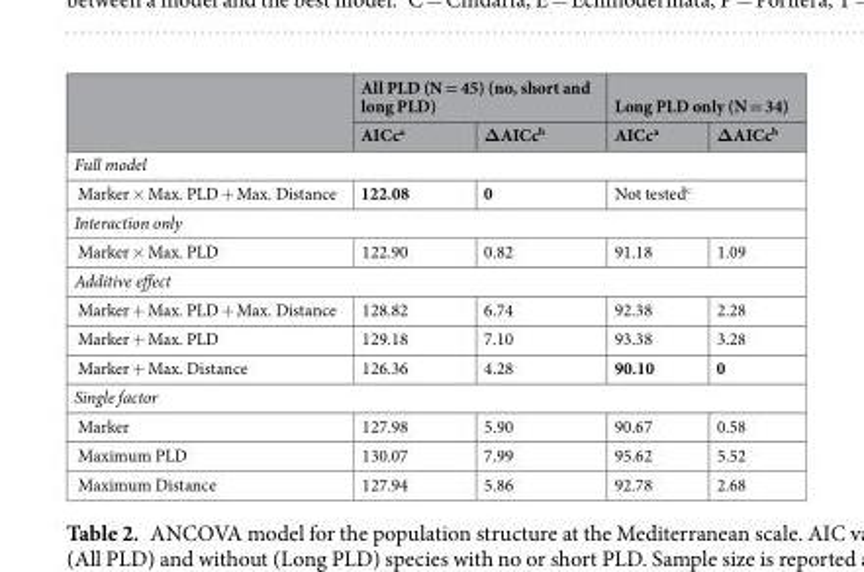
<table><thead><tr><td rowspan="2"></td><td colspan="2">All PLD (N = 45) (no, short and long PLD)</td><td colspan="2">Long PLD only (N = 34)</td></tr><tr><td>AICc<sup>a</sup></td><td>ΔAICc<sup>b</sup></td><td>AICc<sup>a</sup></td><td>ΔAICc<sup>b</sup></td></tr></thead><tbody><tr><td colspan="5">Full model</td></tr><tr><td>Marker × Max. PLD + Max. Distance</td><td>122.08</td><td>0</td><td colspan="2">Not tested<sup>c</sup></td></tr><tr><td colspan="5">Interaction only</td></tr><tr><td>Marker × Max. PLD</td><td>122.90</td><td>0.82</td><td>91.18</td><td>1.09</td></tr><tr><td colspan="5">Additive effect</td></tr><tr><td>Marker + Max. PLD + Max. Distance</td><td>128.82</td><td>6.74</td><td>92.38</td><td>2.28</td></tr><tr><td>Marker + Max. PLD</td><td>129.18</td><td>7.10</td><td>93.38</td><td>3.28</td></tr><tr><td>Marker + Max. Distance</td><td>126.36</td><td>4.28</td><td>90.10</td><td>0</td></tr><tr><td colspan="5">Single factor</td></tr><tr><td>Marker</td><td>127.98</td><td>5.90</td><td>90.67</td><td>0.58</td></tr><tr><td>Maximum PLD</td><td>130.07</td><td>7.99</td><td>95.62</td><td>5.52</td></tr><tr><td>Maximum Distance</td><td>127.94</td><td>5.86</td><td>92.78</td><td>2.68</td></tr></tbody></table>